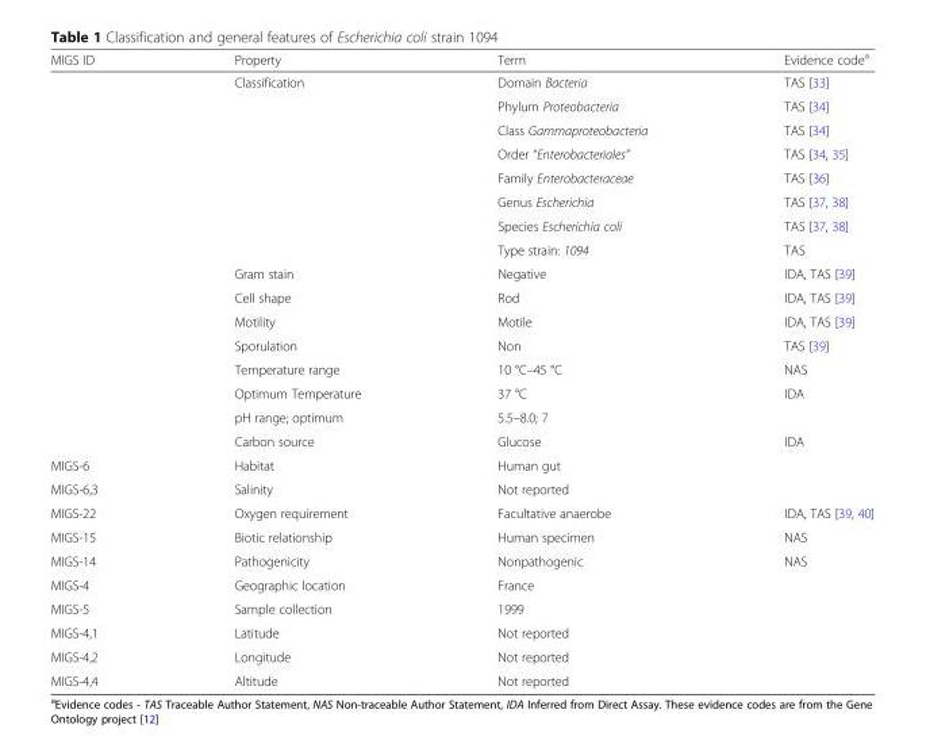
<table><thead><tr><td>MIGS ID</td><td>Property</td><td>Term</td><td>Evidence code<sup>a</sup></td></tr></thead><tbody><tr><td></td><td>Classification</td><td>Domain Bacteria</td><td>TAS [33]</td></tr><tr><td></td><td></td><td>Phylum Proteobacteria</td><td>TAS [34]</td></tr><tr><td></td><td></td><td>Class Gammaproteobacteria</td><td>TAS [34]</td></tr><tr><td></td><td></td><td>Order “Enterobacteriales”</td><td>TAS [34, 35]</td></tr><tr><td></td><td></td><td>Family Enterobacteraceae</td><td>TAS [36]</td></tr><tr><td></td><td></td><td>Genus Escherichia</td><td>TAS [37, 38]</td></tr><tr><td></td><td></td><td>Species Escherichia coli</td><td>TAS [37, 38]</td></tr><tr><td></td><td></td><td>Type strain: 1094</td><td>TAS</td></tr><tr><td></td><td>Gram stain</td><td>Negative</td><td>IDA, TAS [39]</td></tr><tr><td></td><td>Cell shape</td><td>Rod</td><td>IDA, TAS [39]</td></tr><tr><td></td><td>Motility</td><td>Motile</td><td>IDA, TAS [39]</td></tr><tr><td></td><td>Sporulation</td><td>Non</td><td>TAS [39]</td></tr><tr><td></td><td>Temperature range</td><td>10 °C–45 °C</td><td>NAS</td></tr><tr><td></td><td>Optimum Temperature</td><td>37 °C</td><td>IDA</td></tr><tr><td></td><td>pH range; optimum</td><td>5.5–8.0; 7</td><td></td></tr><tr><td></td><td>Carbon source</td><td>Glucose</td><td>IDA</td></tr><tr><td>MIGS-6</td><td>Habitat</td><td>Human gut</td><td></td></tr><tr><td>MIGS-6,3</td><td>Salinity</td><td>Not reported</td><td></td></tr><tr><td>MIGS-22</td><td>Oxygen requirement</td><td>Facultative anaerobe</td><td>IDA, TAS [39, 40]</td></tr><tr><td>MIGS-15</td><td>Biotic relationship</td><td>Human specimen</td><td>NAS</td></tr><tr><td>MIGS-14</td><td>Pathogenicity</td><td>Nonpathogenic</td><td>NAS</td></tr><tr><td>MIGS-4</td><td>Geographic location</td><td>France</td><td></td></tr><tr><td>MIGS-5</td><td>Sample collection</td><td>1999</td><td></td></tr><tr><td>MIGS-4,1</td><td>Latitude</td><td>Not reported</td><td></td></tr><tr><td>MIGS-4,2</td><td>Longitude</td><td>Not reported</td><td></td></tr><tr><td>MIGS-4,4</td><td>Altitude</td><td>Not reported</td><td></td></tr></tbody></table>